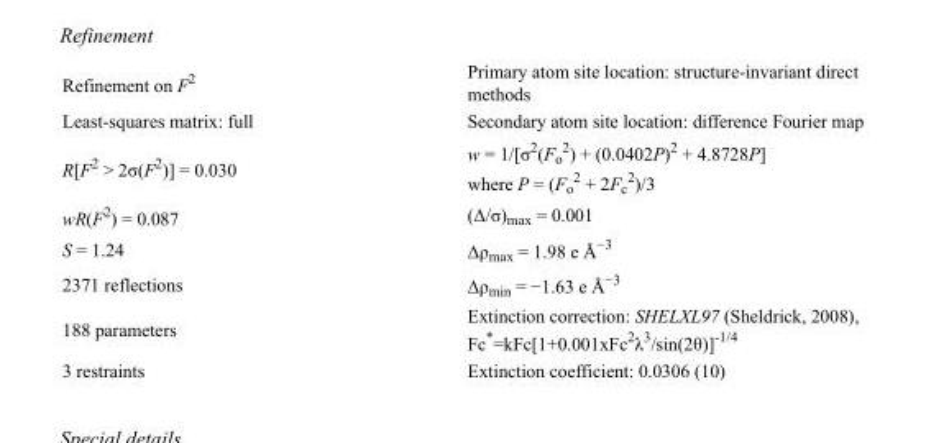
<table><tbody><tr><td>Refinement on F<sup>2</sup></td><td>Primary atom site location: structure-invariant direct methods</td></tr><tr><td>Least-squares matrix: full</td><td>Secondary atom site location: difference Fourier map</td></tr><tr><td>R[F<sup>2</sup> &gt; 2σ(F<sup>2</sup>)] = 0.030</td><td>w = 1/[σ<sup>2</sup>(F<sub>o</sub> <sup>2</sup>) + (0.0402P)<sup>2</sup> + 4.8728P] where P = (F<sub>o</sub> <sup>2</sup> + 2F<sub>c</sub> <sup>2</sup>)/3</td></tr><tr><td>wR(F<sup>2</sup>) = 0.087</td><td>(Δ/σ)<sub>max</sub> = 0.001</td></tr><tr><td>S = 1.24</td><td>Δρ<sub>max</sub> = 1.98 e Å<sup>−3</sup></td></tr><tr><td>2371 reflections</td><td>Δρ<sub>min</sub> = −1.63 e Å<sup>−3</sup></td></tr><tr><td>188 parameters</td><td>Extinction correction: SHELXL97 (Sheldrick, 2008), Fc*=kFc[1+0.001xFc<sup>2</sup>λ<sup>3</sup>/sin(2θ)]<sup>-1/4</sup></td></tr><tr><td>3 restraints</td><td>Extinction coefficient: 0.0306 (10)</td></tr></tbody></table>